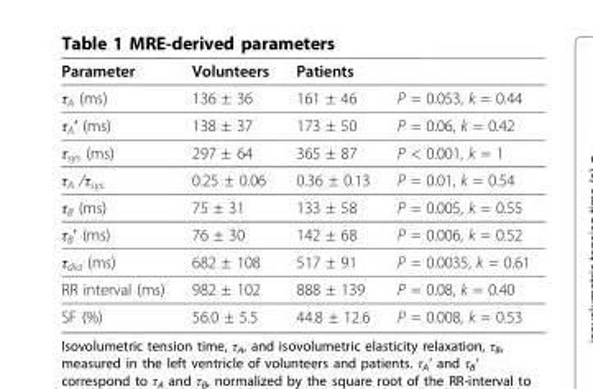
<table><thead><tr><td>Parameter</td><td>Volunteers</td><td>Patients</td><td></td></tr></thead><tbody><tr><td>τ<sub>A</sub> (ms)</td><td>136 ± 36</td><td>161 ± 46</td><td>P = 0.053, k = 0.44</td></tr><tr><td>τ<sub>A</sub>′ (ms)</td><td>138 ± 37</td><td>173 ± 50</td><td>P = 0.06, k = 0.42</td></tr><tr><td>τ<sub>sys</sub> (ms)</td><td>297 ± 64</td><td>365 ± 87</td><td>P &lt; 0.001, k = 1</td></tr><tr><td>τ<sub>A</sub> /τ<sub>sys</sub></td><td>0.25 ± 0.06</td><td>0.36 ± 0.13</td><td>P = 0.01, k = 0.54</td></tr><tr><td>τ<sub>B</sub> (ms)</td><td>75 ± 31</td><td>133 ± 58</td><td>P = 0.005, k = 0.55</td></tr><tr><td>τ<sub>B</sub>′ (ms)</td><td>76 ± 30</td><td>142 ± 68</td><td>P = 0.006, k = 0.52</td></tr><tr><td>τ<sub>dia</sub> (ms)</td><td>682 ± 108</td><td>517 ± 91</td><td>P = 0.0035, k = 0.61</td></tr><tr><td>RR interval (ms)</td><td>982 ± 102</td><td>888 ± 139</td><td>P = 0.08, k = 0.40</td></tr><tr><td>SF (%)</td><td>56.0 ± 5.5</td><td>44.8 ± 12.6</td><td>P = 0.008, k = 0.53</td></tr></tbody></table>